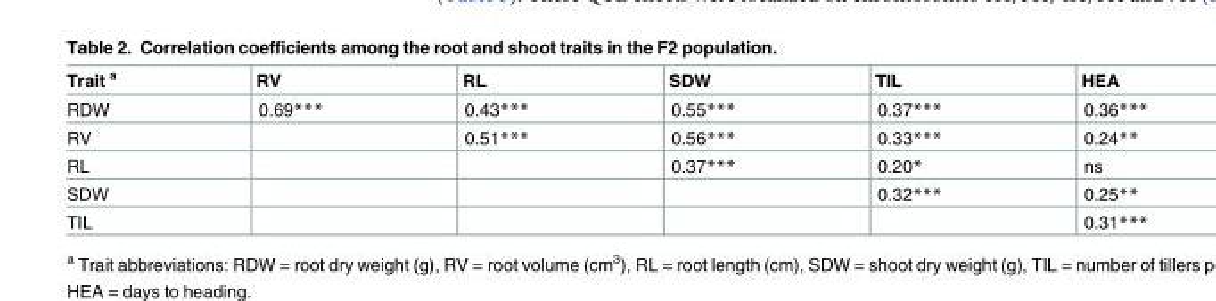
<table><thead><tr><td>Trait <sup>a</sup></td><td>RV</td><td>RL</td><td>SDW</td><td>TIL</td><td>HEA</td></tr></thead><tbody><tr><td>RDW</td><td>0.69***</td><td>0.43***</td><td>0.55***</td><td>0.37***</td><td>0.36***</td></tr><tr><td>RV</td><td></td><td>0.51***</td><td>0.56***</td><td>0.33***</td><td>0.24**</td></tr><tr><td>RL</td><td></td><td></td><td>0.37***</td><td>0.20*</td><td>ns</td></tr><tr><td>SDW</td><td></td><td></td><td></td><td>0.32***</td><td>0.25**</td></tr><tr><td>TIL</td><td></td><td></td><td></td><td></td><td>0.31***</td></tr></tbody></table>